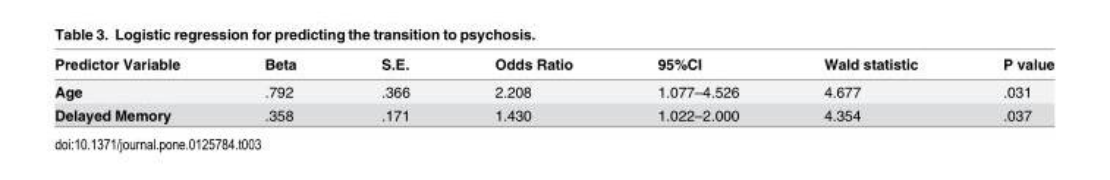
<table><thead><tr><td>Predictor Variable</td><td>Beta</td><td>S.E.</td><td>Odds Ratio</td><td>95%CI</td><td>Wald statistic</td><td>P value</td></tr></thead><tbody><tr><td>Age</td><td>.792</td><td>.366</td><td>2.208</td><td>1.077–4.526</td><td>4.677</td><td>.031</td></tr><tr><td>Delayed Memory</td><td>.358</td><td>.171</td><td>1.430</td><td>1.022–2.000</td><td>4.354</td><td>.037</td></tr></tbody></table>